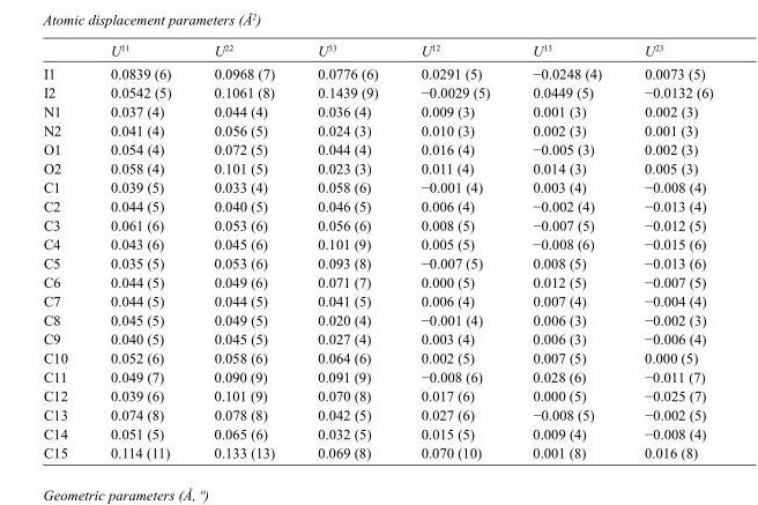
<table><thead><tr><td></td><td>U<sup>11</sup></td><td>U<sup>22</sup></td><td>U<sup>33</sup></td><td>U<sup>12</sup></td><td>U<sup>13</sup></td><td>U<sup>23</sup></td></tr></thead><tbody><tr><td>I1</td><td>0.0839 (6)</td><td>0.0968 (7)</td><td>0.0776 (6)</td><td>0.0291 (5)</td><td>−0.0248 (4)</td><td>0.0073 (5)</td></tr><tr><td>I2</td><td>0.0542 (5)</td><td>0.1061 (8)</td><td>0.1439 (9)</td><td>−0.0029 (5)</td><td>0.0449 (5)</td><td>−0.0132 (6)</td></tr><tr><td>N1</td><td>0.037 (4)</td><td>0.044 (4)</td><td>0.036 (4)</td><td>0.009 (3)</td><td>0.001 (3)</td><td>0.002 (3)</td></tr><tr><td>N2</td><td>0.041 (4)</td><td>0.056 (5)</td><td>0.024 (3)</td><td>0.010 (3)</td><td>0.002 (3)</td><td>0.001 (3)</td></tr><tr><td>O1</td><td>0.054 (4)</td><td>0.072 (5)</td><td>0.044 (4)</td><td>0.016 (4)</td><td>−0.005 (3)</td><td>0.002 (3)</td></tr><tr><td>O2</td><td>0.058 (4)</td><td>0.101 (5)</td><td>0.023 (3)</td><td>0.011 (4)</td><td>0.014 (3)</td><td>0.005 (3)</td></tr><tr><td>C1</td><td>0.039 (5)</td><td>0.033 (4)</td><td>0.058 (6)</td><td>−0.001 (4)</td><td>0.003 (4)</td><td>−0.008 (4)</td></tr><tr><td>C2</td><td>0.044 (5)</td><td>0.040 (5)</td><td>0.046 (5)</td><td>0.006 (4)</td><td>−0.002 (4)</td><td>−0.013 (4)</td></tr><tr><td>C3</td><td>0.061 (6)</td><td>0.053 (6)</td><td>0.056 (6)</td><td>0.008 (5)</td><td>−0.007 (5)</td><td>−0.012 (5)</td></tr><tr><td>C4</td><td>0.043 (6)</td><td>0.045 (6)</td><td>0.101 (9)</td><td>0.005 (5)</td><td>−0.008 (6)</td><td>−0.015 (6)</td></tr><tr><td>C5</td><td>0.035 (5)</td><td>0.053 (6)</td><td>0.093 (8)</td><td>−0.007 (5)</td><td>0.008 (5)</td><td>−0.013 (6)</td></tr><tr><td>C6</td><td>0.044 (5)</td><td>0.049 (6)</td><td>0.071 (7)</td><td>0.000 (5)</td><td>0.012 (5)</td><td>−0.007 (5)</td></tr><tr><td>C7</td><td>0.044 (5)</td><td>0.044 (5)</td><td>0.041 (5)</td><td>0.006 (4)</td><td>0.007 (4)</td><td>−0.004 (4)</td></tr><tr><td>C8</td><td>0.045 (5)</td><td>0.049 (5)</td><td>0.020 (4)</td><td>−0.001 (4)</td><td>0.006 (3)</td><td>−0.002 (3)</td></tr><tr><td>C9</td><td>0.040 (5)</td><td>0.045 (5)</td><td>0.027 (4)</td><td>0.003 (4)</td><td>0.006 (3)</td><td>−0.006 (4)</td></tr><tr><td>C10</td><td>0.052 (6)</td><td>0.058 (6)</td><td>0.064 (6)</td><td>0.002 (5)</td><td>0.007 (5)</td><td>0.000 (5)</td></tr><tr><td>C11</td><td>0.049 (7)</td><td>0.090 (9)</td><td>0.091 (9)</td><td>−0.008 (6)</td><td>0.028 (6)</td><td>−0.011 (7)</td></tr><tr><td>C12</td><td>0.039 (6)</td><td>0.101 (9)</td><td>0.070 (8)</td><td>0.017 (6)</td><td>0.000 (5)</td><td>−0.025 (7)</td></tr><tr><td>C13</td><td>0.074 (8)</td><td>0.078 (8)</td><td>0.042 (5)</td><td>0.027 (6)</td><td>−0.008 (5)</td><td>−0.002 (5)</td></tr><tr><td>C14</td><td>0.051 (5)</td><td>0.065 (6)</td><td>0.032 (5)</td><td>0.015 (5)</td><td>0.009 (4)</td><td>−0.008 (4)</td></tr><tr><td>C15</td><td>0.114 (11)</td><td>0.133 (13)</td><td>0.069 (8)</td><td>0.070 (10)</td><td>0.001 (8)</td><td>0.016 (8)</td></tr></tbody></table>